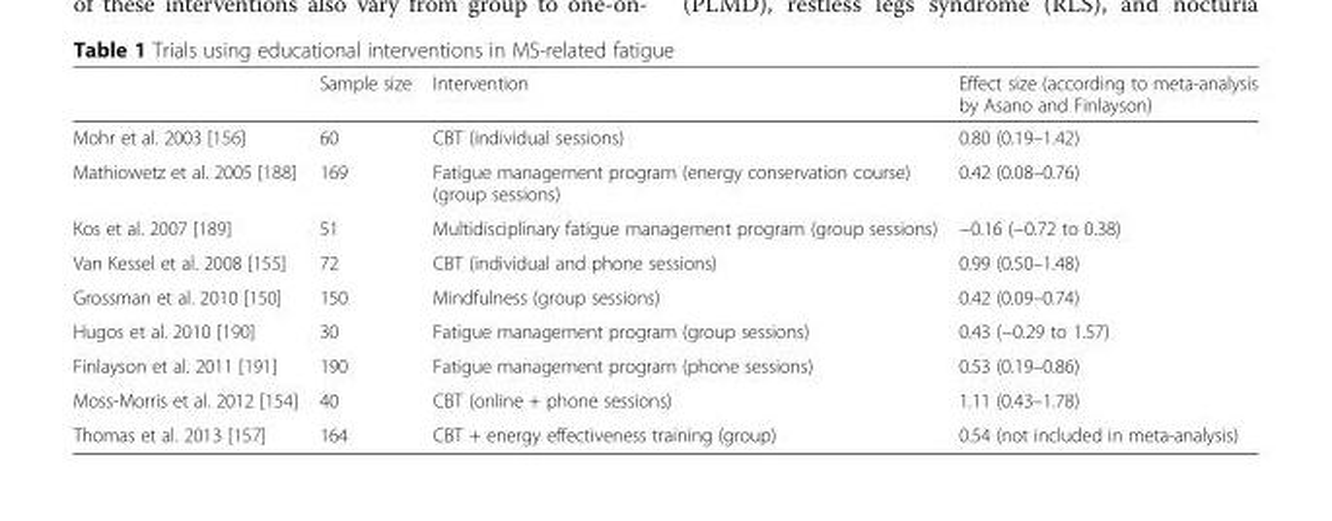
<table><thead><tr><td></td><td>Sample size</td><td>Intervention</td><td>Effect size (according to meta-analysis by Asano and Finlayson)</td></tr></thead><tbody><tr><td>Mohr et al. 2003 [156]</td><td>60</td><td>CBT (individual sessions)</td><td>0.80 (0.19–1.42)</td></tr><tr><td>Mathiowetz et al. 2005 [188]</td><td>169</td><td>Fatigue management program (energy conservation course) (group sessions)</td><td>0.42 (0.08–0.76)</td></tr><tr><td>Kos et al. 2007 [189]</td><td>51</td><td>Multidisciplinary fatigue management program (group sessions)</td><td>−0.16 (−0.72 to 0.38)</td></tr><tr><td>Van Kessel et al. 2008 [155]</td><td>72</td><td>CBT (individual and phone sessions)</td><td>0.99 (0.50–1.48)</td></tr><tr><td>Grossman et al. 2010 [150]</td><td>150</td><td>Mindfulness (group sessions)</td><td>0.42 (0.09–0.74)</td></tr><tr><td>Hugos et al. 2010 [190]</td><td>30</td><td>Fatigue management program (group sessions)</td><td>0.43 (−0.29 to 1.57)</td></tr><tr><td>Finlayson et al. 2011 [191]</td><td>190</td><td>Fatigue management program (phone sessions)</td><td>0.53 (0.19–0.86)</td></tr><tr><td>Moss-Morris et al. 2012 [154]</td><td>40</td><td>CBT (online + phone sessions)</td><td>1.11 (0.43–1.78)</td></tr><tr><td>Thomas et al. 2013 [157]</td><td>164</td><td>CBT + energy effectiveness training (group)</td><td>0.54 (not included in meta-analysis)</td></tr></tbody></table>